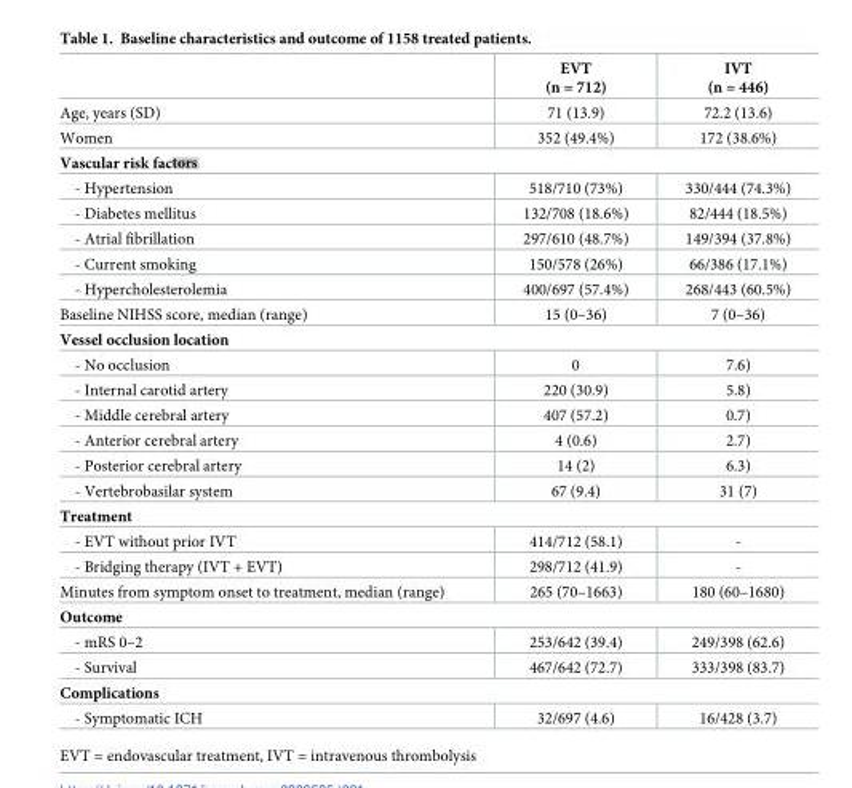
<table><thead><tr><td></td><td>EVT (n = 712)</td><td>IVT (n = 446)</td></tr></thead><tbody><tr><td>Age, years (SD)</td><td>71 (13.9)</td><td>72.2 (13.6)</td></tr><tr><td>Women</td><td>352 (49.4%)</td><td>172 (38.6%)</td></tr><tr><td colspan="3">Vascular risk factors tors</td></tr><tr><td>- Hypertension</td><td>518/710 (73%)</td><td>330/444 (74.3%)</td></tr><tr><td>- Diabetes mellitus</td><td>132/708 (18.6%)</td><td>82/444 (18.5%)</td></tr><tr><td>- Atrial fibrillation</td><td>297/610 (48.7%)</td><td>149/394 (37.8%)</td></tr><tr><td>- Current smoking</td><td>150/578 (26%)</td><td>66/386 (17.1%)</td></tr><tr><td>- Hypercholesterolemia</td><td>400/697 (57.4%)</td><td>268/443 (60.5%)</td></tr><tr><td>Baseline NIHSS score, median (range)</td><td>15 (0–36)</td><td>7 (0–36)</td></tr><tr><td colspan="3">Vessel occlusion location</td></tr><tr><td>- No occlusion</td><td>0</td><td>7.6)</td></tr><tr><td>- Internal carotid artery</td><td>220 (30.9)</td><td>5.8)</td></tr><tr><td>- Middle cerebral artery</td><td>407 (57.2)</td><td>0.7)</td></tr><tr><td>- Anterior cerebral artery</td><td>4 (0.6)</td><td>2.7)</td></tr><tr><td>- Posterior cerebral artery</td><td>14 (2)</td><td>6.3)</td></tr><tr><td>- Vertebrobasilar system</td><td>67 (9.4)</td><td>31 (7)</td></tr><tr><td colspan="3">Treatment</td></tr><tr><td>- EVT without prior IVT</td><td>414/712 (58.1)</td><td>-</td></tr><tr><td>- Bridging therapy (IVT + EVT)</td><td>298/712 (41.9)</td><td>-</td></tr><tr><td>Minutes from symptom onset to treatment, median (range)</td><td>265 (70–1663)</td><td>180 (60–1680)</td></tr><tr><td colspan="3">Outcome</td></tr><tr><td>- mRS 0–2</td><td>253/642 (39.4)</td><td>249/398 (62.6)</td></tr><tr><td>- Survival</td><td>467/642 (72.7)</td><td>333/398 (83.7)</td></tr><tr><td colspan="3">Complications</td></tr><tr><td>- Symptomatic ICH</td><td>32/697 (4.6)</td><td>16/428 (3.7)</td></tr></tbody></table>